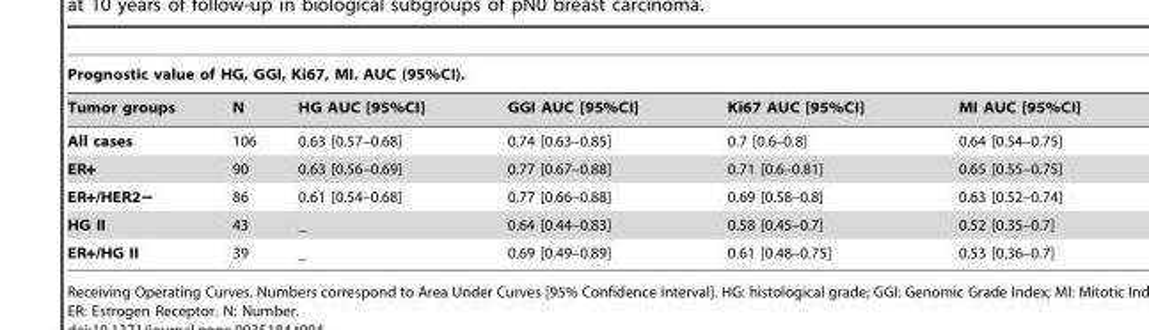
<table><thead><tr><td colspan="6">Prognostic value of HG, GGI, Ki67, MI. AUC (95%CI).</td></tr><tr><td>Tumor groups</td><td>N</td><td>HG AUC [95%CI]</td><td>GGI AUC [95%CI]</td><td>Ki67 AUC [95%CI]</td><td>MI AUC [95%CI]</td></tr></thead><tbody><tr><td>All cases</td><td>106</td><td>0.63 [0.57–0.68]</td><td>0.74 [0.63–0.85]</td><td>0.7 [0.6–0.8]</td><td>0.64 [0.54–0.75]</td></tr><tr><td>ER+</td><td>90</td><td>0.63 [0.56–0.69]</td><td>0.77 [0.67–0.88]</td><td>0.71 [0.6–0.81]</td><td>0.65 [0.55–0.75]</td></tr><tr><td>ER+/HER2−</td><td>86</td><td>0.61 [0.54–0.68]</td><td>0.77 [0.66–0.88]</td><td>0.69 [0.58–0.8]</td><td>0.63 [0.52–0.74]</td></tr><tr><td>HG II</td><td>43</td><td>_</td><td>0.64 [0.44–0.83]</td><td>0.58 [0.45–0.7]</td><td>0.52 [0.35–0.7]</td></tr><tr><td>ER+/HG II</td><td>39</td><td>_</td><td>0.69 [0.49–0.89]</td><td>0.61 [0.48–0.75]</td><td>0.53 [0.36–0.7]</td></tr></tbody></table>